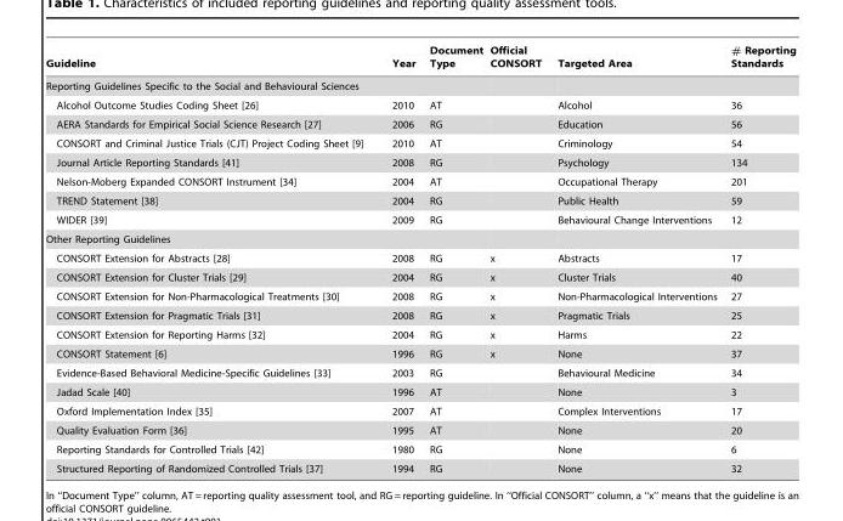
<table><thead><tr><td>Guideline</td><td>Year</td><td>Document Type</td><td>Official CONSORT</td><td>Targeted Area</td><td># Reporting Standards</td></tr></thead><tbody><tr><td colspan="6">Reporting Guidelines Specific to the Social and Behavioural Sciences</td></tr><tr><td>Alcohol Outcome Studies Coding Sheet [26]</td><td>2010</td><td>AT</td><td></td><td>Alcohol</td><td>36</td></tr><tr><td>AERA Standards for Empirical Social Science Research [27]</td><td>2006</td><td>RG</td><td></td><td>Education</td><td>56</td></tr><tr><td>CONSORT and Criminal Justice Trials (CJT) Project Coding Sheet [9]</td><td>2010</td><td>AT</td><td></td><td>Criminology</td><td>54</td></tr><tr><td>Journal Article Reporting Standards [41]</td><td>2008</td><td>RG</td><td></td><td>Psychology</td><td>134</td></tr><tr><td>Nelson-Moberg Expanded CONSORT Instrument [34]</td><td>2004</td><td>AT</td><td></td><td>Occupational Therapy</td><td>201</td></tr><tr><td>TREND Statement [38]</td><td>2004</td><td>RG</td><td></td><td>Public Health</td><td>59</td></tr><tr><td>WIDER [39]</td><td>2009</td><td>RG</td><td></td><td>Behavioural Change Interventions</td><td>12</td></tr><tr><td colspan="6">Other Reporting Guidelines</td></tr><tr><td>CONSORT Extension for Abstracts [28]</td><td>2008</td><td>RG</td><td>x</td><td>Abstracts</td><td>17</td></tr><tr><td>CONSORT Extension for Cluster Trials [29]</td><td>2004</td><td>RG</td><td>x</td><td>Cluster Trials</td><td>40</td></tr><tr><td>CONSORT Extension for Non-Pharmacological Treatments [30]</td><td>2008</td><td>RG</td><td>x</td><td>Non-Pharmacological Interventions</td><td>27</td></tr><tr><td>CONSORT Extension for Pragmatic Trials [31]</td><td>2008</td><td>RG</td><td>x</td><td>Pragmatic Trials</td><td>25</td></tr><tr><td>CONSORT Extension for Reporting Harms [32]</td><td>2004</td><td>RG</td><td>x</td><td>Harms</td><td>22</td></tr><tr><td>CONSORT Statement [6]</td><td>1996</td><td>RG</td><td>x</td><td>None</td><td>37</td></tr><tr><td>Evidence-Based Behavioral Medicine-Specific Guidelines [33]</td><td>2003</td><td>RG</td><td></td><td>Behavioural Medicine</td><td>34</td></tr><tr><td>Jadad Scale [40]</td><td>1996</td><td>AT</td><td></td><td>None</td><td>3</td></tr><tr><td>Oxford Implementation Index [35]</td><td>2007</td><td>AT</td><td></td><td>Complex Interventions</td><td>17</td></tr><tr><td>Quality Evaluation Form [36]</td><td>1995</td><td>AT</td><td></td><td>None</td><td>20</td></tr><tr><td>Reporting Standards for Controlled Trials [42]</td><td>1980</td><td>RG</td><td></td><td>None</td><td>6</td></tr><tr><td>Structured Reporting of Randomized Controlled Trials [37]</td><td>1994</td><td>RG</td><td></td><td>None</td><td>32</td></tr></tbody></table>